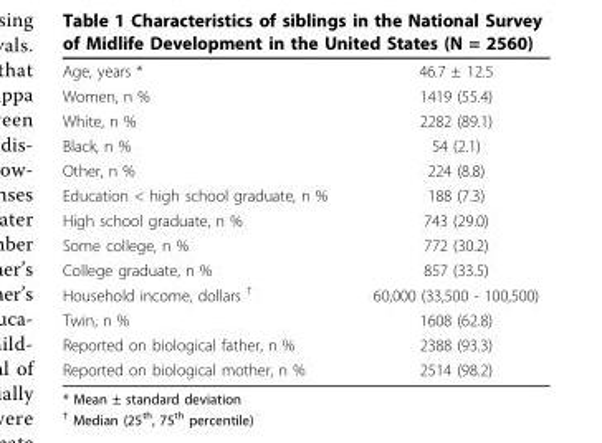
<table><tbody><tr><td>Age, years *</td><td>46.7 ± 12.5</td></tr><tr><td>Women, n %</td><td>1419 (55.4)</td></tr><tr><td>White, n %</td><td>2282 (89.1)</td></tr><tr><td>Black, n %</td><td>54 (2.1)</td></tr><tr><td>Other, n %</td><td>224 (8.8)</td></tr><tr><td>Education &lt; high school graduate, n %</td><td>188 (7.3)</td></tr><tr><td>High school graduate, n %</td><td>743 (29.0)</td></tr><tr><td>Some college, n %</td><td>772 (30.2)</td></tr><tr><td>College graduate, n %</td><td>857 (33.5)</td></tr><tr><td>Household income, dollars <sup>†</sup></td><td>60,000 (33,500 - 100,500)</td></tr><tr><td>Twin, n %</td><td>1608 (62.8)</td></tr><tr><td>Reported on biological father, n %</td><td>2388 (93.3)</td></tr><tr><td>Reported on biological mother, n %</td><td>2514 (98.2)</td></tr></tbody></table>